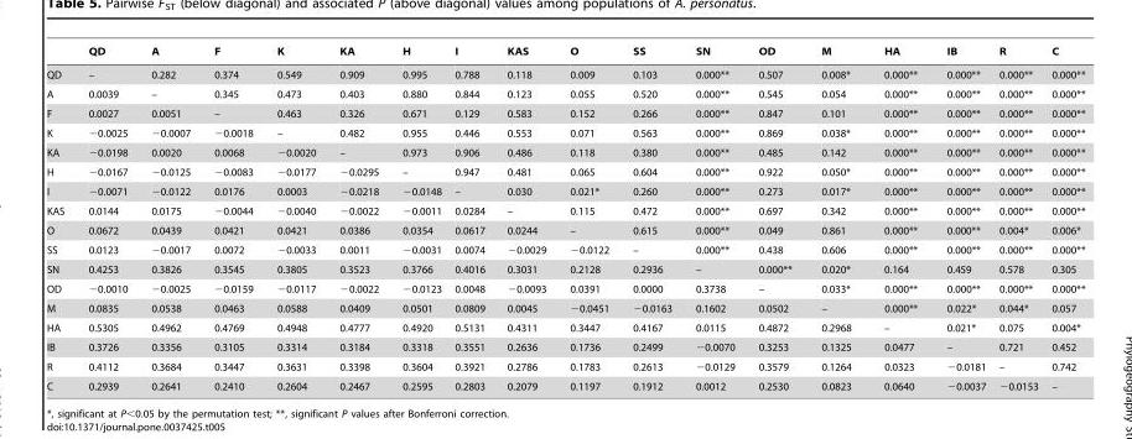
<table><thead><tr><td></td><td>QD</td><td>A</td><td>F</td><td>K</td><td>KA</td><td>H</td><td>I</td><td>KAS</td><td>O</td><td>SS</td><td>SN</td><td>OD</td><td>M</td><td>HA</td><td>IB</td><td>R</td><td>C</td></tr></thead><tbody><tr><td>QD</td><td>–</td><td>0.282</td><td>0.374</td><td>0.549</td><td>0.909</td><td>0.995</td><td>0.788</td><td>0.118</td><td>0.009</td><td>0.103</td><td>0.000**</td><td>0.507</td><td>0.008*</td><td>0.000**</td><td>0.000**</td><td>0.000**</td><td>0.000**</td></tr><tr><td>A</td><td>0.0039</td><td>–</td><td>0.345</td><td>0.473</td><td>0.403</td><td>0.880</td><td>0.844</td><td>0.123</td><td>0.055</td><td>0.520</td><td>0.000**</td><td>0.545</td><td>0.054</td><td>0.000**</td><td>0.000**</td><td>0.000**</td><td>0.000**</td></tr><tr><td>F</td><td>0.0027</td><td>0.0051</td><td>–</td><td>0.463</td><td>0.326</td><td>0.671</td><td>0.129</td><td>0.583</td><td>0.152</td><td>0.266</td><td>0.000**</td><td>0.847</td><td>0.101</td><td>0.000**</td><td>0.000**</td><td>0.000**</td><td>0.000**</td></tr><tr><td>K</td><td>−0.0025</td><td>−0.0007</td><td>−0.0018</td><td>–</td><td>0.482</td><td>0.955</td><td>0.446</td><td>0.553</td><td>0.071</td><td>0.563</td><td>0.000**</td><td>0.869</td><td>0.038*</td><td>0.000**</td><td>0.000**</td><td>0.000**</td><td>0.000**</td></tr><tr><td>KA</td><td>−0.0198</td><td>0.0020</td><td>0.0068</td><td>−0.0020</td><td>–</td><td>0.973</td><td>0.906</td><td>0.486</td><td>0.118</td><td>0.380</td><td>0.000**</td><td>0.485</td><td>0.142</td><td>0.000**</td><td>0.000**</td><td>0.000**</td><td>0.000**</td></tr><tr><td>H</td><td>−0.0167</td><td>−0.0125</td><td>−0.0083</td><td>−0.0177</td><td>−0.0295</td><td>–</td><td>0.947</td><td>0.481</td><td>0.065</td><td>0.604</td><td>0.000**</td><td>0.922</td><td>0.050*</td><td>0.000**</td><td>0.000**</td><td>0.000**</td><td>0.000**</td></tr><tr><td>I</td><td>−0.0071</td><td>−0.0122</td><td>0.0176</td><td>0.0003</td><td>−0.0218</td><td>−0.0148</td><td>–</td><td>0.030</td><td>0.021*</td><td>0.260</td><td>0.000**</td><td>0.273</td><td>0.017*</td><td>0.000**</td><td>0.000**</td><td>0.000**</td><td>0.000**</td></tr><tr><td>KAS</td><td>0.0144</td><td>0.0175</td><td>−0.0044</td><td>−0.0040</td><td>−0.0022</td><td>−0.0011</td><td>0.0284</td><td>–</td><td>0.115</td><td>0.472</td><td>0.000**</td><td>0.697</td><td>0.342</td><td>0.000**</td><td>0.000**</td><td>0.000**</td><td>0.000**</td></tr><tr><td>O</td><td>0.0672</td><td>0.0439</td><td>0.0421</td><td>0.0421</td><td>0.0386</td><td>0.0354</td><td>0.0617</td><td>0.0244</td><td>–</td><td>0.615</td><td>0.000**</td><td>0.049</td><td>0.861</td><td>0.000**</td><td>0.000**</td><td>0.004*</td><td>0.006*</td></tr><tr><td>SS</td><td>0.0123</td><td>−0.0017</td><td>0.0072</td><td>−0.0033</td><td>0.0011</td><td>−0.0031</td><td>0.0074</td><td>−0.0029</td><td>−0.0122</td><td>–</td><td>0.000**</td><td>0.438</td><td>0.606</td><td>0.000**</td><td>0.000**</td><td>0.000**</td><td>0.000**</td></tr><tr><td>SN</td><td>0.4253</td><td>0.3826</td><td>0.3545</td><td>0.3805</td><td>0.3523</td><td>0.3766</td><td>0.4016</td><td>0.3031</td><td>0.2128</td><td>0.2936</td><td>–</td><td>0.000**</td><td>0.020*</td><td>0.164</td><td>0.459</td><td>0.578</td><td>0.305</td></tr><tr><td>OD</td><td>−0.0010</td><td>−0.0025</td><td>−0.0159</td><td>−0.0117</td><td>−0.0022</td><td>−0.0123</td><td>0.0048</td><td>−0.0093</td><td>0.0391</td><td>0.0000</td><td>0.3738</td><td>–</td><td>0.033*</td><td>0.000**</td><td>0.000**</td><td>0.000**</td><td>0.000**</td></tr><tr><td>M</td><td>0.0835</td><td>0.0538</td><td>0.0463</td><td>0.0588</td><td>0.0409</td><td>0.0501</td><td>0.0809</td><td>0.0045</td><td>−0.0451</td><td>−0.0163</td><td>0.1602</td><td>0.0502</td><td>–</td><td>0.000**</td><td>0.022*</td><td>0.044*</td><td>0.057</td></tr><tr><td>HA</td><td>0.5305</td><td>0.4962</td><td>0.4769</td><td>0.4948</td><td>0.4777</td><td>0.4920</td><td>0.5131</td><td>0.4311</td><td>0.3447</td><td>0.4167</td><td>0.0115</td><td>0.4872</td><td>0.2968</td><td>–</td><td>0.021*</td><td>0.075</td><td>0.004*</td></tr><tr><td>IB</td><td>0.3726</td><td>0.3356</td><td>0.3105</td><td>0.3314</td><td>0.3184</td><td>0.3318</td><td>0.3551</td><td>0.2636</td><td>0.1736</td><td>0.2499</td><td>−0.0070</td><td>0.3253</td><td>0.1325</td><td>0.0477</td><td>–</td><td>0.721</td><td>0.452</td></tr><tr><td>R</td><td>0.4112</td><td>0.3684</td><td>0.3447</td><td>0.3631</td><td>0.3398</td><td>0.3604</td><td>0.3921</td><td>0.2786</td><td>0.1783</td><td>0.2613</td><td>−0.0129</td><td>0.3579</td><td>0.1264</td><td>0.0323</td><td>−0.0181</td><td>–</td><td>0.742</td></tr><tr><td>C</td><td>0.2939</td><td>0.2641</td><td>0.2410</td><td>0.2604</td><td>0.2467</td><td>0.2595</td><td>0.2803</td><td>0.2079</td><td>0.1197</td><td>0.1912</td><td>0.0012</td><td>0.2530</td><td>0.0823</td><td>0.0640</td><td>−0.0037</td><td>−0.0153</td><td>–</td></tr></tbody></table>